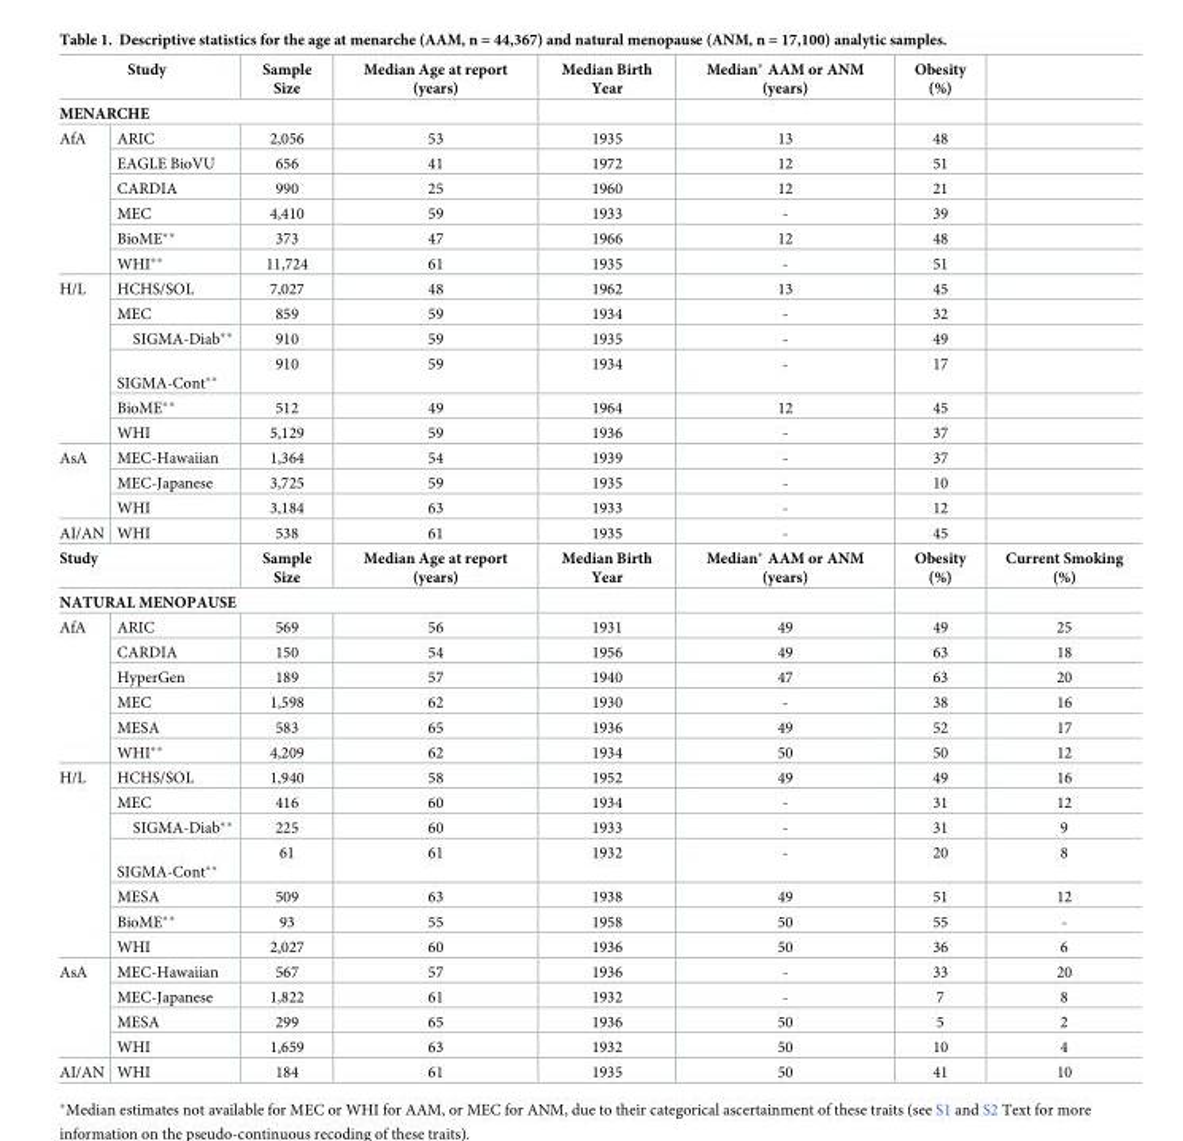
<table><tbody><tr><td colspan="2">Study</td><td>Sample Size</td><td>Median Age at report (years)</td><td>Median Birth Year</td><td>Median* AAM or ANM (years)</td><td>Obesity (%)</td><td></td></tr><tr><td colspan="8">MENARCHE</td></tr><tr><td rowspan="6">AfA</td><td>ARIC</td><td>2,056</td><td>53</td><td>1935</td><td>13</td><td>48</td><td></td></tr><tr><td>EAGLE BioVU</td><td>656</td><td>41</td><td>1972</td><td>12</td><td>51</td><td></td></tr><tr><td>CARDIA</td><td>990</td><td>25</td><td>1960</td><td>12</td><td>21</td><td></td></tr><tr><td>MEC</td><td>4,410</td><td>59</td><td>1933</td><td>-</td><td>39</td><td></td></tr><tr><td>BioME**</td><td>373</td><td>47</td><td>1966</td><td>12</td><td>48</td><td></td></tr><tr><td>WHI**</td><td>11,724</td><td>61</td><td>1935</td><td>-</td><td>51</td><td></td></tr><tr><td rowspan="6">H/L</td><td>HCHS/SOL</td><td>7,027</td><td>48</td><td>1962</td><td>13</td><td>45</td><td></td></tr><tr><td>MEC</td><td>859</td><td>59</td><td>1934</td><td>-</td><td>32</td><td></td></tr><tr><td>SIGMA-Diab**</td><td>910</td><td>59</td><td>1935</td><td>-</td><td>49</td><td></td></tr><tr><td>SIGMA-Cont**</td><td>910</td><td>59</td><td>1934</td><td>-</td><td>17</td><td></td></tr><tr><td>BioME**</td><td>512</td><td>49</td><td>1964</td><td>12</td><td>45</td><td></td></tr><tr><td>WHI</td><td>5,129</td><td>59</td><td>1936</td><td>-</td><td>37</td><td></td></tr><tr><td rowspan="3">AsA</td><td>MEC-Hawaiian</td><td>1,364</td><td>54</td><td>1939</td><td>-</td><td>37</td><td></td></tr><tr><td>MEC-Japanese</td><td>3,725</td><td>59</td><td>1935</td><td>-</td><td>10</td><td></td></tr><tr><td>WHI</td><td>3,184</td><td>63</td><td>1933</td><td>-</td><td>12</td><td></td></tr><tr><td>AI/AN</td><td>WHI</td><td>538</td><td>61</td><td>1935</td><td>-</td><td>45</td><td></td></tr><tr><td colspan="2">Study</td><td>Sample Size</td><td>Median Age at report (years)</td><td>Median Birth Year</td><td>Median* AAM or ANM (years)</td><td>Obesity (%)</td><td>Current Smoking (%)</td></tr><tr><td colspan="8">NATURAL MENOPAUSE</td></tr><tr><td rowspan="6">AfA</td><td>ARIC</td><td>569</td><td>56</td><td>1931</td><td>49</td><td>49</td><td>25</td></tr><tr><td>CARDIA</td><td>150</td><td>54</td><td>1956</td><td>49</td><td>63</td><td>18</td></tr><tr><td>HyperGen</td><td>189</td><td>57</td><td>1940</td><td>47</td><td>63</td><td>20</td></tr><tr><td>MEC</td><td>1,598</td><td>62</td><td>1930</td><td>-</td><td>38</td><td>16</td></tr><tr><td>MESA</td><td>583</td><td>65</td><td>1936</td><td>49</td><td>52</td><td>17</td></tr><tr><td>WHI**</td><td>4,209</td><td>62</td><td>1934</td><td>50</td><td>50</td><td>12</td></tr><tr><td rowspan="7">H/L</td><td>HCHS/SOL</td><td>1,940</td><td>58</td><td>1952</td><td>49</td><td>49</td><td>16</td></tr><tr><td>MEC</td><td>416</td><td>60</td><td>1934</td><td>-</td><td>31</td><td>12</td></tr><tr><td>SIGMA-Diab**</td><td>225</td><td>60</td><td>1933</td><td>-</td><td>31</td><td>9</td></tr><tr><td>SIGMA-Cont**</td><td>61</td><td>61</td><td>1932</td><td>-</td><td>20</td><td>8</td></tr><tr><td>MESA</td><td>509</td><td>63</td><td>1938</td><td>49</td><td>51</td><td>12</td></tr><tr><td>BioME**</td><td>93</td><td>55</td><td>1958</td><td>50</td><td>55</td><td>-</td></tr><tr><td>WHI</td><td>2,027</td><td>60</td><td>1936</td><td>50</td><td>36</td><td>6</td></tr><tr><td rowspan="4">AsA</td><td>MEC-Hawaiian</td><td>567</td><td>57</td><td>1936</td><td>-</td><td>33</td><td>20</td></tr><tr><td>MEC-Japanese</td><td>1,822</td><td>61</td><td>1932</td><td>-</td><td>7</td><td>8</td></tr><tr><td>MESA</td><td>299</td><td>65</td><td>1936</td><td>50</td><td>5</td><td>2</td></tr><tr><td>WHI</td><td>1,659</td><td>63</td><td>1932</td><td>50</td><td>10</td><td>4</td></tr><tr><td>AI/AN</td><td>WHI</td><td>184</td><td>61</td><td>1935</td><td>50</td><td>41</td><td>10</td></tr></tbody></table>